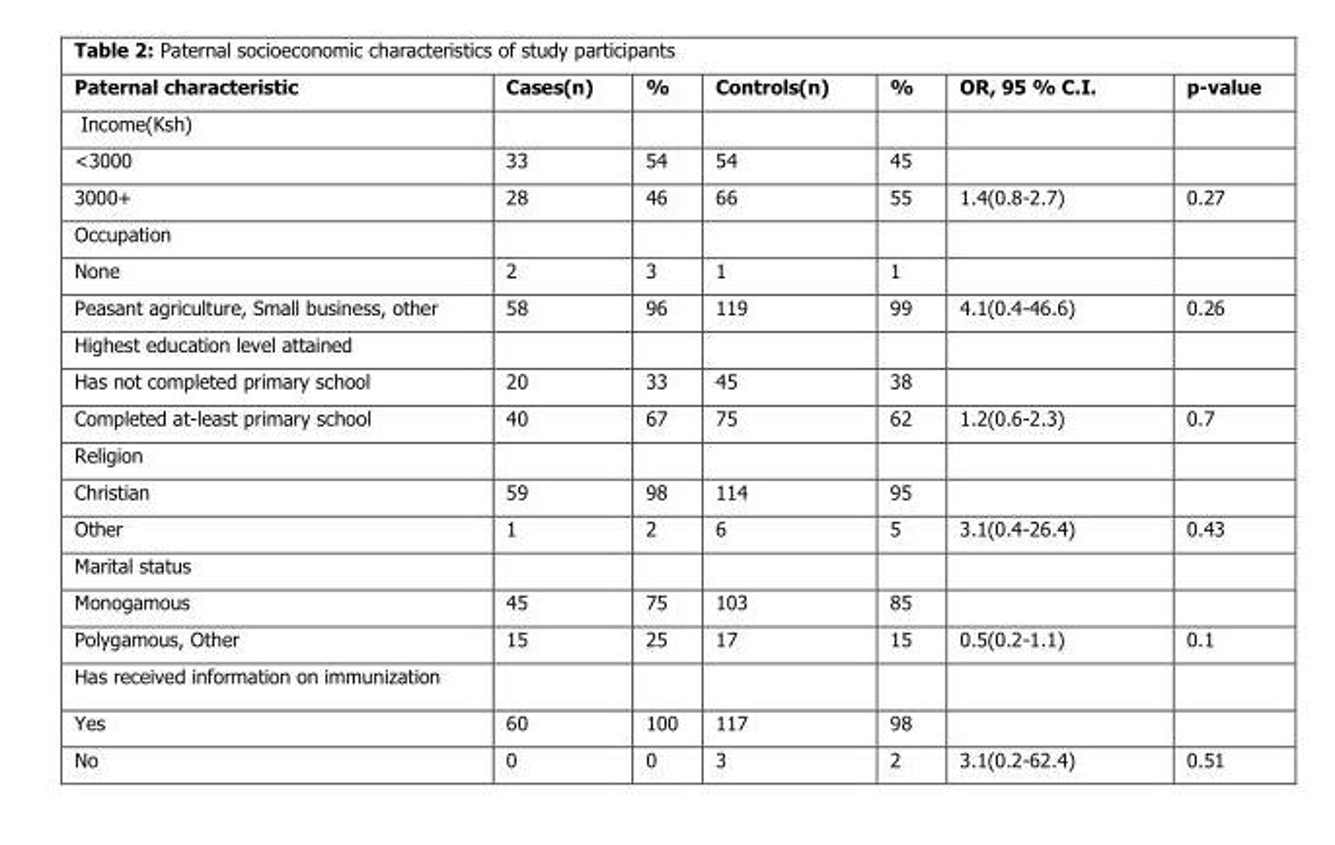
<table><thead><tr><td>Paternal characteristic</td><td>Cases(n)</td><td>%</td><td>Controls(n)</td><td>%</td><td>OR, 95 % C.I.</td><td>p-value</td></tr></thead><tbody><tr><td colspan="7">Income(Ksh)</td></tr><tr><td>&lt;3000</td><td>33</td><td>54</td><td>54</td><td>45</td><td></td><td></td></tr><tr><td>3000+</td><td>28</td><td>46</td><td>66</td><td>55</td><td>1.4(0.8-2.7)</td><td>0.27</td></tr><tr><td colspan="7">Occupation</td></tr><tr><td>None</td><td>2</td><td>3</td><td>1</td><td>1</td><td></td><td></td></tr><tr><td>Peasant agriculture, Small business, other</td><td>58</td><td>96</td><td>119</td><td>99</td><td>4.1(0.4-46.6)</td><td>0.26</td></tr><tr><td colspan="7">Highest education level attained</td></tr><tr><td>Has not completed primary school</td><td>20</td><td>33</td><td>45</td><td>38</td><td></td><td></td></tr><tr><td>Completed at-least primary school</td><td>40</td><td>67</td><td>75</td><td>62</td><td>1.2(0.6-2.3)</td><td>0.7</td></tr><tr><td colspan="7">Religion</td></tr><tr><td>Christian</td><td>59</td><td>98</td><td>114</td><td>95</td><td></td><td></td></tr><tr><td>Other</td><td>1</td><td>2</td><td>6</td><td>5</td><td>3.1(0.4-26.4)</td><td>0.43</td></tr><tr><td colspan="7">Marital status</td></tr><tr><td>Monogamous</td><td>45</td><td>75</td><td>103</td><td>85</td><td></td><td></td></tr><tr><td>Polygamous, Other</td><td>15</td><td>25</td><td>17</td><td>15</td><td>0.5(0.2-1.1)</td><td>0.1</td></tr><tr><td colspan="7">Has received information on immunization</td></tr><tr><td>Yes</td><td>60</td><td>100</td><td>117</td><td>98</td><td></td><td></td></tr><tr><td>No</td><td>0</td><td>0</td><td>3</td><td>2</td><td>3.1(0.2-62.4)</td><td>0.51</td></tr></tbody></table>